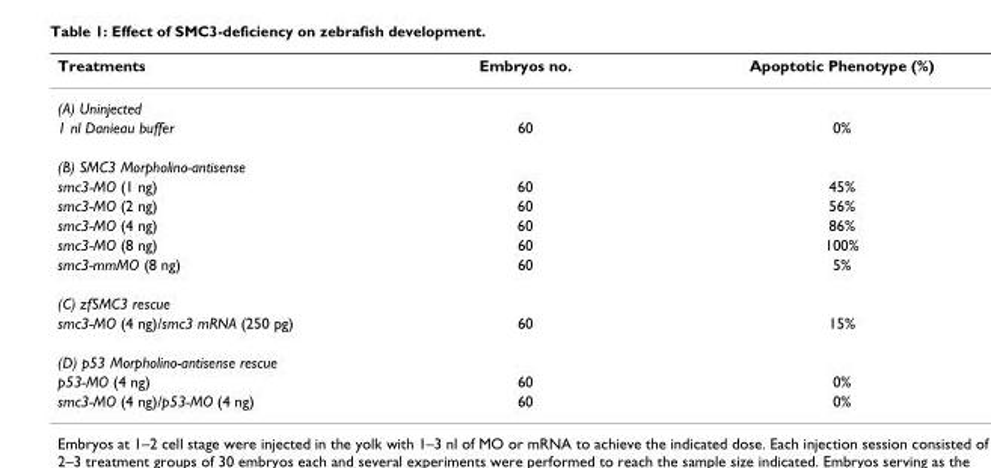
<table><thead><tr><td>Treatments</td><td>Embryos no.</td><td>Apoptotic Phenotype (%)</td></tr></thead><tbody><tr><td colspan="3">(A) Uninjected</td></tr><tr><td>1 nl Danieau buffer</td><td>60</td><td>0%</td></tr><tr><td colspan="3">(B) SMC3 Morpholino-antisense</td></tr><tr><td>smc3-MO (1 ng)</td><td>60</td><td>45%</td></tr><tr><td>smc3-MO (2 ng)</td><td>60</td><td>56%</td></tr><tr><td>smc3-MO (4 ng)</td><td>60</td><td>86%</td></tr><tr><td>smc3-MO (8 ng)</td><td>60</td><td>100%</td></tr><tr><td>smc3-mmMO (8 ng)</td><td>60</td><td>5%</td></tr><tr><td colspan="3">(C) zfSMC3 rescue</td></tr><tr><td>smc3-MO (4 ng)/smc3 mRNA (250 pg)</td><td>60</td><td>15%</td></tr><tr><td colspan="3">(D) p53 Morpholino-antisense rescue</td></tr><tr><td>p53-MO (4 ng)</td><td>60</td><td>0%</td></tr><tr><td>smc3-MO (4 ng)/p53-MO (4 ng)</td><td>60</td><td>0%</td></tr></tbody></table>